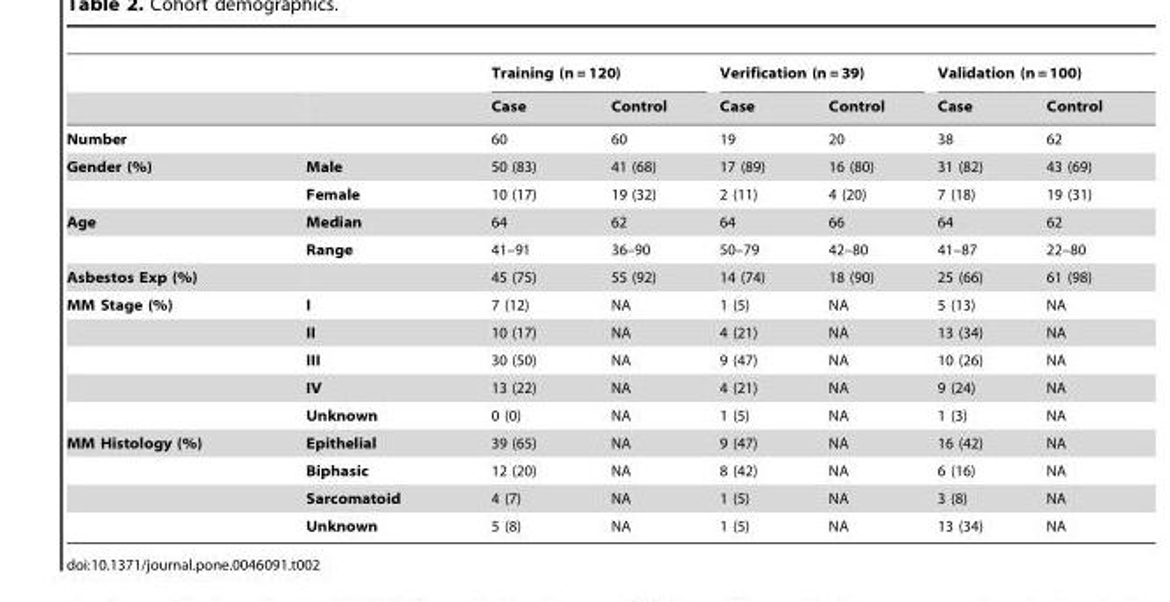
<table><thead><tr><td rowspan="2"></td><td rowspan="2"></td><td colspan="2">Training (n = 120)</td><td colspan="2">Verification (n = 39)</td><td colspan="2">Validation (n = 100)</td></tr><tr><td>Case</td><td>Control</td><td>Case</td><td>Control</td><td>Case</td><td>Control</td></tr></thead><tbody><tr><td>Number</td><td></td><td>60</td><td>60</td><td>19</td><td>20</td><td>38</td><td>62</td></tr><tr><td rowspan="2">Gender (%)</td><td>Male</td><td>50 (83)</td><td>41 (68)</td><td>17 (89)</td><td>16 (80)</td><td>31 (82)</td><td>43 (69)</td></tr><tr><td>Female</td><td>10 (17)</td><td>19 (32)</td><td>2 (11)</td><td>4 (20)</td><td>7 (18)</td><td>19 (31)</td></tr><tr><td rowspan="2">Age</td><td>Median</td><td>64</td><td>62</td><td>64</td><td>66</td><td>64</td><td>62</td></tr><tr><td>Range</td><td>41–91</td><td>36–90</td><td>50–79</td><td>42–80</td><td>41–87</td><td>22–80</td></tr><tr><td>Asbestos Exp (%)</td><td></td><td>45 (75)</td><td>55 (92)</td><td>14 (74)</td><td>18 (90)</td><td>25 (66)</td><td>61 (98)</td></tr><tr><td rowspan="5">MM Stage (%)</td><td>I</td><td>7 (12)</td><td>NA</td><td>1 (5)</td><td>NA</td><td>5 (13)</td><td>NA</td></tr><tr><td>II</td><td>10 (17)</td><td>NA</td><td>4 (21)</td><td>NA</td><td>13 (34)</td><td>NA</td></tr><tr><td>III</td><td>30 (50)</td><td>NA</td><td>9 (47)</td><td>NA</td><td>10 (26)</td><td>NA</td></tr><tr><td>IV</td><td>13 (22)</td><td>NA</td><td>4 (21)</td><td>NA</td><td>9 (24)</td><td>NA</td></tr><tr><td>Unknown</td><td>0 (0)</td><td>NA</td><td>1 (5)</td><td>NA</td><td>1 (3)</td><td>NA</td></tr><tr><td rowspan="4">MM Histology (%)</td><td>Epithelial</td><td>39 (65)</td><td>NA</td><td>9 (47)</td><td>NA</td><td>16 (42)</td><td>NA</td></tr><tr><td>Biphasic</td><td>12 (20)</td><td>NA</td><td>8 (42)</td><td>NA</td><td>6 (16)</td><td>NA</td></tr><tr><td>Sarcomatoid</td><td>4 (7)</td><td>NA</td><td>1 (5)</td><td>NA</td><td>3 (8)</td><td>NA</td></tr><tr><td>Unknown</td><td>5 (8)</td><td>NA</td><td>1 (5)</td><td>NA</td><td>13 (34)</td><td>NA</td></tr></tbody></table>